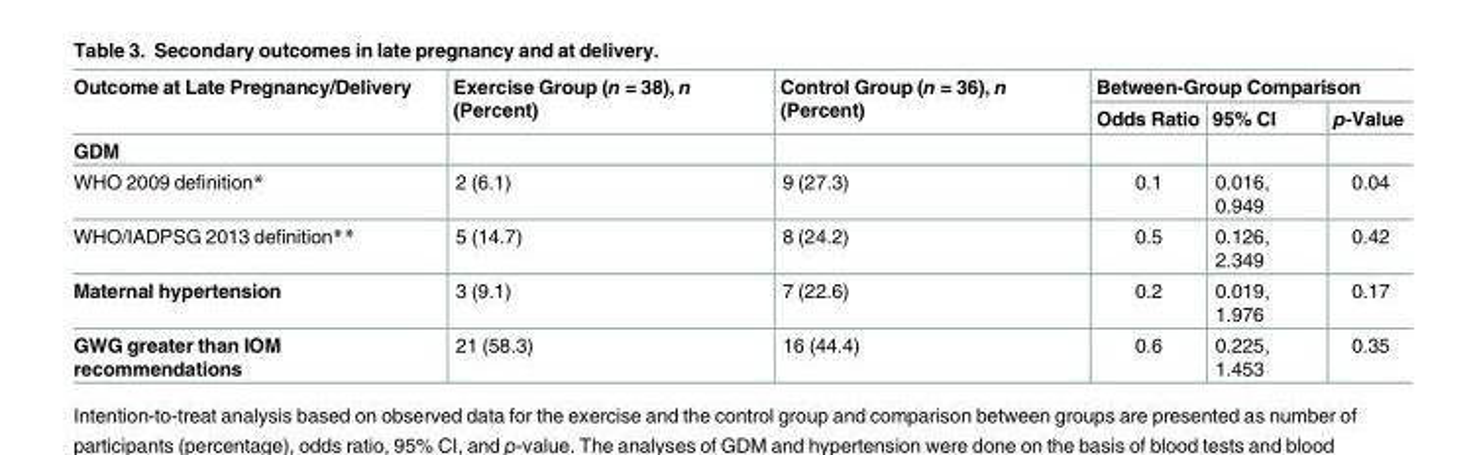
<table><thead><tr><td rowspan="2">Outcome at Late Pregnancy/Delivery</td><td rowspan="2">Exercise Group (n = 38), n (Percent)</td><td rowspan="2">Control Group (n = 36), n (Percent)</td><td colspan="3">Between-Group Comparison</td></tr><tr><td>Odds Ratio</td><td>95% CI</td><td>p-Value</td></tr></thead><tbody><tr><td colspan="6">GDM</td></tr><tr><td>WHO 2009 definition*</td><td>2 (6.1)</td><td>9 (27.3)</td><td>0.1</td><td>0.016, 0.949</td><td>0.04</td></tr><tr><td>WHO/IADPSG 2013 definition**</td><td>5 (14.7)</td><td>8 (24.2)</td><td>0.5</td><td>0.126, 2.349</td><td>0.42</td></tr><tr><td>Maternal hypertension</td><td>3 (9.1)</td><td>7 (22.6)</td><td>0.2</td><td>0.019, 1.976</td><td>0.17</td></tr><tr><td>GWG greater than IOM recommendations</td><td>21 (58.3)</td><td>16 (44.4)</td><td>0.6</td><td>0.225, 1.453</td><td>0.35</td></tr></tbody></table>